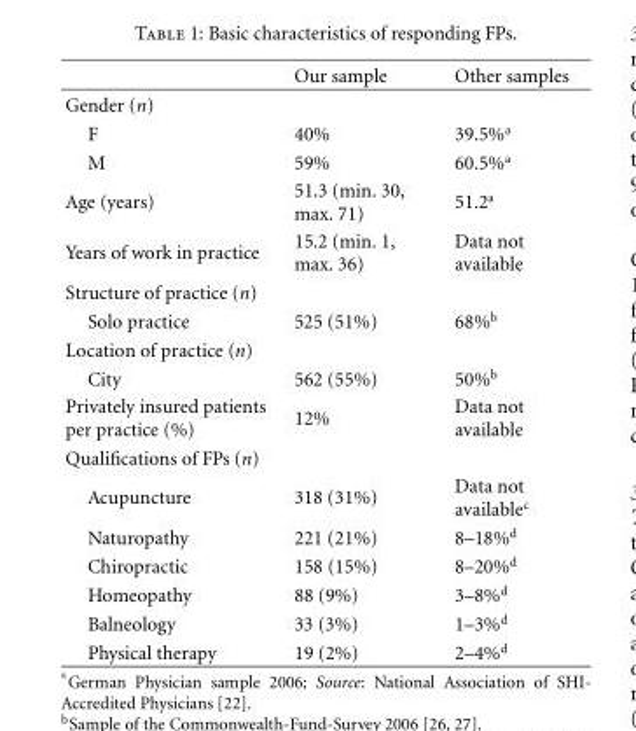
<table><thead><tr><td></td><td>Our sample</td><td>Other samples</td></tr></thead><tbody><tr><td colspan="3">Gender (n)</td></tr><tr><td>F</td><td>40%</td><td>39.5%<sup>a</sup></td></tr><tr><td>M</td><td>59%</td><td>60.5%<sup>a</sup></td></tr><tr><td>Age (years)</td><td>51.3 (min. 30, max. 71)</td><td>51.2<sup>a</sup></td></tr><tr><td>Years of work in practice</td><td>15.2 (min. 1, max. 36)</td><td>Data not available</td></tr><tr><td colspan="3">Structure of practice (n)</td></tr><tr><td>Solo practice</td><td>525 (51%)</td><td>68%<sup>b</sup></td></tr><tr><td colspan="3">Location of practice (n)</td></tr><tr><td>City</td><td>562 (55%)</td><td>50%<sup>b</sup></td></tr><tr><td>Privately insured patients per practice (%)</td><td>12%</td><td>Data not available</td></tr><tr><td colspan="3">Qualifications of FPs (n)</td></tr><tr><td>Acupuncture</td><td>318 (31%)</td><td>Data not available<sup>c</sup></td></tr><tr><td>Naturopathy</td><td>221 (21%)</td><td>8–18%<sup>d</sup></td></tr><tr><td>Chiropractic</td><td>158 (15%)</td><td>8–20%<sup>d</sup></td></tr><tr><td>Homeopathy</td><td>88 (9%)</td><td>3–8%<sup>d</sup></td></tr><tr><td>Balneology</td><td>33 (3%)</td><td>1–3%<sup>d</sup></td></tr><tr><td>Physical therapy</td><td>19 (2%)</td><td>2–4%<sup>d</sup></td></tr></tbody></table>